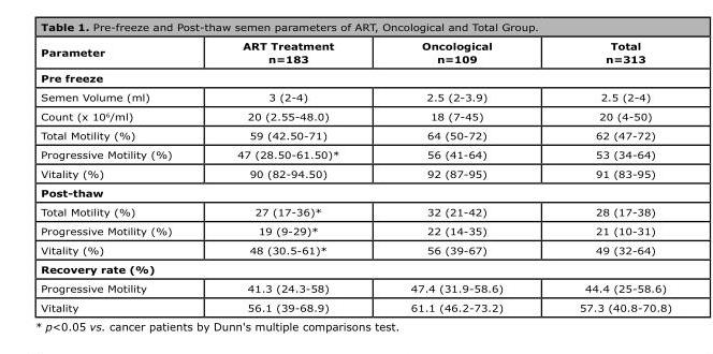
<table><thead><tr><td>Parameter</td><td>ART Treatment n=183</td><td>Oncological n=109</td><td>Total n=313</td></tr></thead><tbody><tr><td colspan="4">Pre freeze</td></tr><tr><td>Semen Volume (ml)</td><td>3 (2-4)</td><td>2.5 (2-3.9)</td><td>2.5 (2-4)</td></tr><tr><td>Count (x 10<sup>6</sup>/ml)</td><td>20 (2.55-48.0)</td><td>18 (7-45)</td><td>20 (4-50)</td></tr><tr><td>Total Motility (%)</td><td>59 (42.50-71)</td><td>64 (50-72)</td><td>62 (47-72)</td></tr><tr><td>Progressive Motility (%)</td><td>47 (28.50-61.50)*</td><td>56 (41-64)</td><td>53 (34-64)</td></tr><tr><td>Vitality (%)</td><td>90 (82-94.50)</td><td>92 (87-95)</td><td>91 (83-95)</td></tr><tr><td colspan="4">Post-thaw</td></tr><tr><td>Total Motility (%)</td><td>27 (17-36)*</td><td>32 (21-42)</td><td>28 (17-38)</td></tr><tr><td>Progressive Motility (%)</td><td>19 (9-29)*</td><td>22 (14-35)</td><td>21 (10-31)</td></tr><tr><td>Vitality (%)</td><td>48 (30.5-61)*</td><td>56 (39-67)</td><td>49 (32-64)</td></tr><tr><td colspan="4">Recovery rate (%)</td></tr><tr><td>Progressive Motility</td><td>41.3 (24.3-58)</td><td>47.4 (31.9-58.6)</td><td>44.4 (25-58.6)</td></tr><tr><td>Vitality</td><td>56.1 (39-68.9)</td><td>61.1 (46.2-73.2)</td><td>57.3 (40.8-70.8)</td></tr></tbody></table>